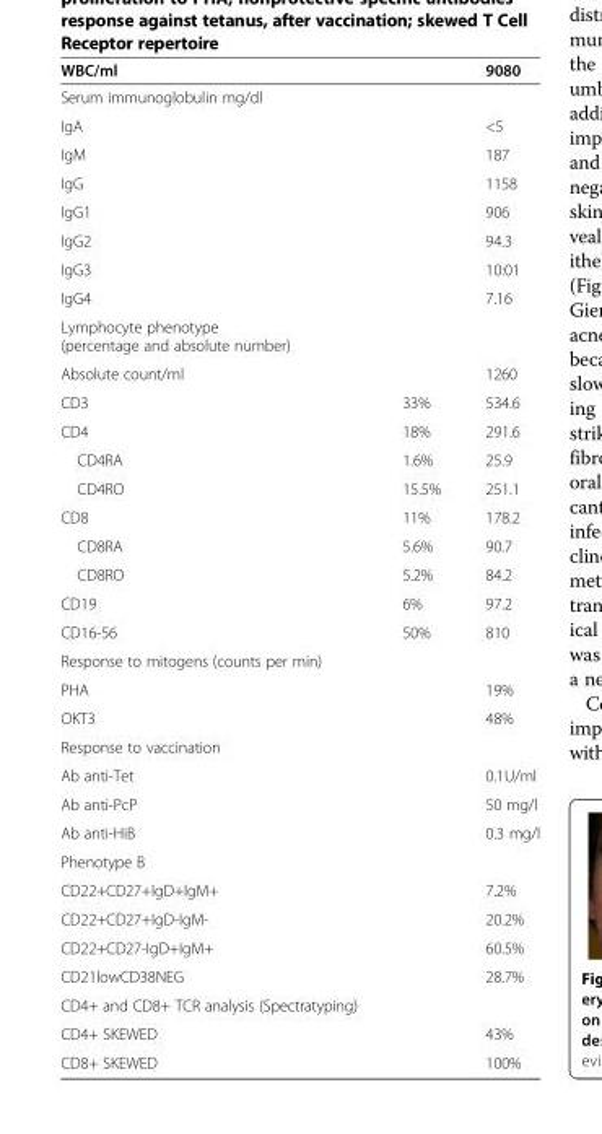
<table><thead><tr><td>WBC/ml</td><td></td><td>9080</td></tr></thead><tbody><tr><td colspan="3">Serum immunoglobulin mg/dl</td></tr><tr><td>IgA</td><td></td><td>&lt;5</td></tr><tr><td>IgM</td><td></td><td>187</td></tr><tr><td>IgG</td><td></td><td>1158</td></tr><tr><td>IgG1</td><td></td><td>906</td></tr><tr><td>IgG2</td><td></td><td>94.3</td></tr><tr><td>IgG3</td><td></td><td>10:01</td></tr><tr><td>IgG4</td><td></td><td>7.16</td></tr><tr><td colspan="3">Lymphocyte phenotype (percentage and absolute number)</td></tr><tr><td>Absolute count/ml</td><td></td><td>1260</td></tr><tr><td>CD3</td><td>33%</td><td>534.6</td></tr><tr><td>CD4</td><td>18%</td><td>291.6</td></tr><tr><td>CD4RA</td><td>1.6%</td><td>25.9</td></tr><tr><td>CD4RO</td><td>15.5%</td><td>251.1</td></tr><tr><td>CD8</td><td>11%</td><td>178.2</td></tr><tr><td>CD8RA</td><td>5.6%</td><td>90.7</td></tr><tr><td>CD8RO</td><td>5.2%</td><td>84.2</td></tr><tr><td>CD19</td><td>6%</td><td>97.2</td></tr><tr><td>CD16-56</td><td>50%</td><td>810</td></tr><tr><td colspan="3">Response to mitogens (counts per min)</td></tr><tr><td>PHA</td><td></td><td>19%</td></tr><tr><td>OKT3</td><td></td><td>48%</td></tr><tr><td colspan="3">Response to vaccination</td></tr><tr><td>Ab anti-Tet</td><td></td><td>0.1U/ml</td></tr><tr><td>Ab anti-PcP</td><td></td><td>50 mg/l</td></tr><tr><td>Ab anti-HiB</td><td></td><td>0.3 mg/l</td></tr><tr><td colspan="3">Phenotype B</td></tr><tr><td>CD22+CD27+IgD+IgM+</td><td></td><td>7.2%</td></tr><tr><td>CD22+CD27+IgD-IgM-</td><td></td><td>20.2%</td></tr><tr><td>CD22+CD27-IgD+IgM+</td><td></td><td>60.5%</td></tr><tr><td>CD21lowCD38NEG</td><td></td><td>28.7%</td></tr><tr><td colspan="3">CD4+ and CD8+ TCR analysis (Spectratyping)</td></tr><tr><td>CD4+ SKEWED</td><td></td><td>43%</td></tr><tr><td>CD8+ SKEWED</td><td></td><td>100%</td></tr></tbody></table>